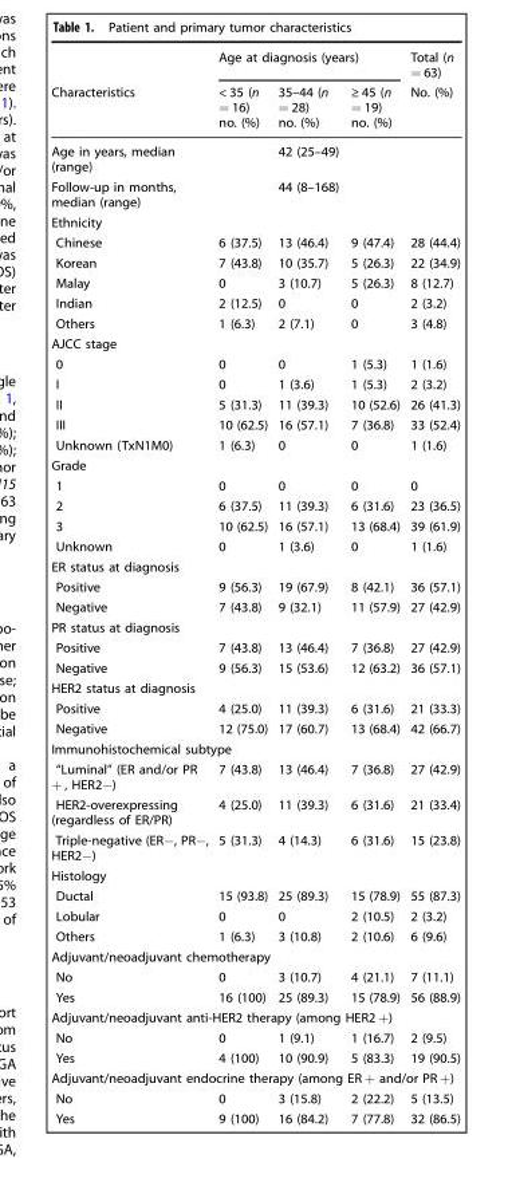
<table><thead><tr><td rowspan="2">Characteristics</td><td colspan="3">Age at diagnosis (years)</td><td rowspan="2">Total (n = 63) No. (%)</td></tr><tr><td>&lt; 35 (n = 16) no. (%)</td><td>35–44 (n = 28) no. (%)</td><td>≥ 45 (n = 19) no. (%)</td></tr></thead><tbody><tr><td>Age in years, median (range)</td><td></td><td>42 (25–49)</td><td></td><td></td></tr><tr><td>Follow-up in months, median (range)</td><td></td><td>44 (8–168)</td><td></td><td></td></tr><tr><td colspan="5">Ethnicity</td></tr><tr><td>Chinese</td><td>6 (37.5)</td><td>13 (46.4)</td><td>9 (47.4)</td><td>28 (44.4)</td></tr><tr><td>Korean</td><td>7 (43.8)</td><td>10 (35.7)</td><td>5 (26.3)</td><td>22 (34.9)</td></tr><tr><td>Malay</td><td>0</td><td>3 (10.7)</td><td>5 (26.3)</td><td>8 (12.7)</td></tr><tr><td>Indian</td><td>2 (12.5)</td><td>0</td><td>0</td><td>2 (3.2)</td></tr><tr><td>Others</td><td>1 (6.3)</td><td>2 (7.1)</td><td>0</td><td>3 (4.8)</td></tr><tr><td colspan="5">AJCC stage</td></tr><tr><td>0</td><td>0</td><td>0</td><td>1 (5.3)</td><td>1 (1.6)</td></tr><tr><td>I</td><td>0</td><td>1 (3.6)</td><td>1 (5.3)</td><td>2 (3.2)</td></tr><tr><td>II</td><td>5 (31.3)</td><td>11 (39.3)</td><td>10 (52.6)</td><td>26 (41.3)</td></tr><tr><td>III</td><td>10 (62.5)</td><td>16 (57.1)</td><td>7 (36.8)</td><td>33 (52.4)</td></tr><tr><td>Unknown (TxN1M0)</td><td>1 (6.3)</td><td>0</td><td>0</td><td>1 (1.6)</td></tr><tr><td colspan="5">Grade</td></tr><tr><td>1</td><td>0</td><td>0</td><td>0</td><td>0</td></tr><tr><td>2</td><td>6 (37.5)</td><td>11 (39.3)</td><td>6 (31.6)</td><td>23 (36.5)</td></tr><tr><td>3</td><td>10 (62.5)</td><td>16 (57.1)</td><td>13 (68.4)</td><td>39 (61.9)</td></tr><tr><td>Unknown</td><td>0</td><td>1 (3.6)</td><td>0</td><td>1 (1.6)</td></tr><tr><td colspan="5">ER status at diagnosis</td></tr><tr><td>Positive</td><td>9 (56.3)</td><td>19 (67.9)</td><td>8 (42.1)</td><td>36 (57.1)</td></tr><tr><td>Negative</td><td>7 (43.8)</td><td>9 (32.1)</td><td>11 (57.9)</td><td>27 (42.9)</td></tr><tr><td colspan="5">PR status at diagnosis</td></tr><tr><td>Positive</td><td>7 (43.8)</td><td>13 (46.4)</td><td>7 (36.8)</td><td>27 (42.9)</td></tr><tr><td>Negative</td><td>9 (56.3)</td><td>15 (53.6)</td><td>12 (63.2)</td><td>36 (57.1)</td></tr><tr><td colspan="5">HER2 status at diagnosis</td></tr><tr><td>Positive</td><td>4 (25.0)</td><td>11 (39.3)</td><td>6 (31.6)</td><td>21 (33.3)</td></tr><tr><td>Negative</td><td>12 (75.0)</td><td>17 (60.7)</td><td>13 (68.4)</td><td>42 (66.7)</td></tr><tr><td colspan="5">Immunohistochemical subtype</td></tr><tr><td>“Luminal” (ER and/or PR + , HER2−)</td><td>7 (43.8)</td><td>13 (46.4)</td><td>7 (36.8)</td><td>27 (42.9)</td></tr><tr><td>HER2-overexpressing (regardless of ER/PR)</td><td>4 (25.0)</td><td>11 (39.3)</td><td>6 (31.6)</td><td>21 (33.4)</td></tr><tr><td>Triple-negative (ER−, PR−, HER2−)</td><td>5 (31.3)</td><td>4 (14.3)</td><td>6 (31.6)</td><td>15 (23.8)</td></tr><tr><td colspan="5">Histology</td></tr><tr><td>Ductal</td><td>15 (93.8)</td><td>25 (89.3)</td><td>15 (78.9)</td><td>55 (87.3)</td></tr><tr><td>Lobular</td><td>0</td><td>0</td><td>2 (10.5)</td><td>2 (3.2)</td></tr><tr><td>Others</td><td>1 (6.3)</td><td>3 (10.8)</td><td>2 (10.6)</td><td>6 (9.6)</td></tr><tr><td colspan="5">Adjuvant/neoadjuvant chemotherapy</td></tr><tr><td>No</td><td>0</td><td>3 (10.7)</td><td>4 (21.1)</td><td>7 (11.1)</td></tr><tr><td>Yes</td><td>16 (100)</td><td>25 (89.3)</td><td>15 (78.9)</td><td>56 (88.9)</td></tr><tr><td colspan="5">Adjuvant/neoadjuvant anti-HER2 therapy (among HER2 +)</td></tr><tr><td>No</td><td>0</td><td>1 (9.1)</td><td>1 (16.7)</td><td>2 (9.5)</td></tr><tr><td>Yes</td><td>4 (100)</td><td>10 (90.9)</td><td>5 (83.3)</td><td>19 (90.5)</td></tr><tr><td colspan="5">Adjuvant/neoadjuvant endocrine therapy (among ER + and/or PR +)</td></tr><tr><td>No</td><td>0</td><td>3 (15.8)</td><td>2 (22.2)</td><td>5 (13.5)</td></tr><tr><td>Yes</td><td>9 (100)</td><td>16 (84.2)</td><td>7 (77.8)</td><td>32 (86.5)</td></tr></tbody></table>